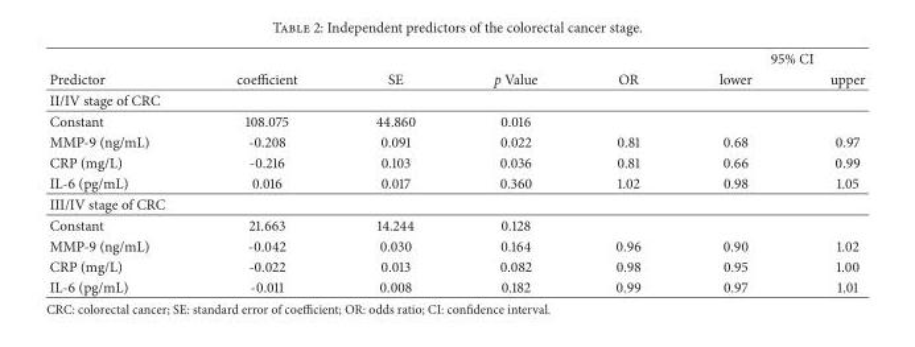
<table><thead><tr><td rowspan="2">Predictor</td><td rowspan="2">coefficient</td><td rowspan="2">SE</td><td rowspan="2">p Value</td><td rowspan="2">OR</td><td colspan="2">95% CI</td></tr><tr><td>lower</td><td>upper</td></tr></thead><tbody><tr><td colspan="7">II/IV stage of CRC</td></tr><tr><td>Constant</td><td>108.075</td><td>44.860</td><td>0.016</td><td></td><td></td><td></td></tr><tr><td>MMP-9 (ng/mL)</td><td>-0.208</td><td>0.091</td><td>0.022</td><td>0.81</td><td>0.68</td><td>0.97</td></tr><tr><td>CRP (mg/L)</td><td>-0.216</td><td>0.103</td><td>0.036</td><td>0.81</td><td>0.66</td><td>0.99</td></tr><tr><td>IL-6 (pg/mL)</td><td>0.016</td><td>0.017</td><td>0.360</td><td>1.02</td><td>0.98</td><td>1.05</td></tr><tr><td colspan="7">III/IV stage of CRC</td></tr><tr><td>Constant</td><td>21.663</td><td>14.244</td><td>0.128</td><td></td><td></td><td></td></tr><tr><td>MMP-9 (ng/mL)</td><td>-0.042</td><td>0.030</td><td>0.164</td><td>0.96</td><td>0.90</td><td>1.02</td></tr><tr><td>CRP (mg/L)</td><td>-0.022</td><td>0.013</td><td>0.082</td><td>0.98</td><td>0.95</td><td>1.00</td></tr><tr><td>IL-6 (pg/mL)</td><td>-0.011</td><td>0.008</td><td>0.182</td><td>0.99</td><td>0.97</td><td>1.01</td></tr></tbody></table>